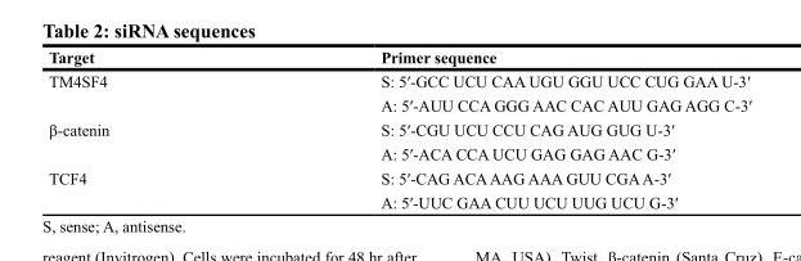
<table><thead><tr><td>Target</td><td>Primer sequence</td></tr></thead><tbody><tr><td rowspan="2">TM4SF4</td><td>S: 5′-GCC UCU CAA UGU GGU UCC CUG GAA U-3′</td></tr><tr><td>A: 5′-AUU CCA GGG AAC CAC AUU GAG AGG C-3′</td></tr><tr><td rowspan="2">β-catenin</td><td>S: 5′-CGU UCU CCU CAG AUG GUG U-3′</td></tr><tr><td>A: 5′-ACA CCA UCU GAG GAG AAC G-3′</td></tr><tr><td rowspan="2">TCF4</td><td>S: 5′-CAG ACA AAG AAA GUU CGA A-3′</td></tr><tr><td>A: 5′-UUC GAA CUU UCU UUG UCU G-3′</td></tr></tbody></table>